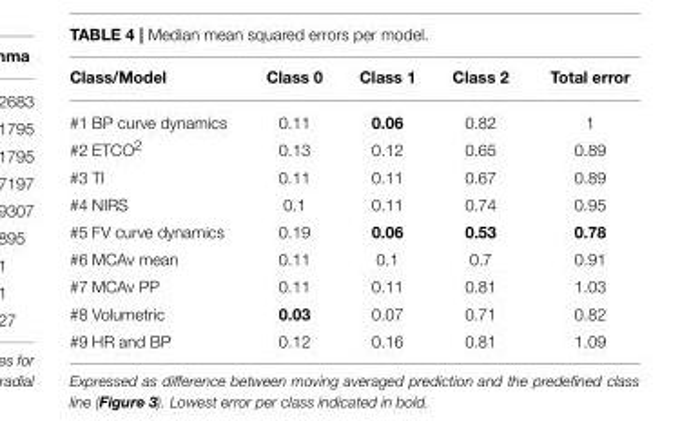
<table><thead><tr><td>Class/Model</td><td>Class 0</td><td>Class 1</td><td>Class 2</td><td>Total error</td></tr></thead><tbody><tr><td>#1 BP curve dynamics</td><td>0.11</td><td>0.06</td><td>0.82</td><td>1</td></tr><tr><td>#2 ETCO<sup>2</sup></td><td>0.13</td><td>0.12</td><td>0.65</td><td>0.89</td></tr><tr><td>#3 TI</td><td>0.11</td><td>0.11</td><td>0.67</td><td>0.89</td></tr><tr><td>#4 NIRS</td><td>0.1</td><td>0.11</td><td>0.74</td><td>0.95</td></tr><tr><td>#5 FV curve dynamics</td><td>0.19</td><td>0.06</td><td>0.53</td><td>0.78</td></tr><tr><td>#6 MCAv mean</td><td>0.11</td><td>0.1</td><td>0.7</td><td>0.91</td></tr><tr><td>#7 MCAv PP</td><td>0.11</td><td>0.11</td><td>0.81</td><td>1.03</td></tr><tr><td>#8 Volumetric</td><td>0.03</td><td>0.07</td><td>0.71</td><td>0.82</td></tr><tr><td>#9 HR and BP</td><td>0.12</td><td>0.16</td><td>0.81</td><td>1.09</td></tr></tbody></table>